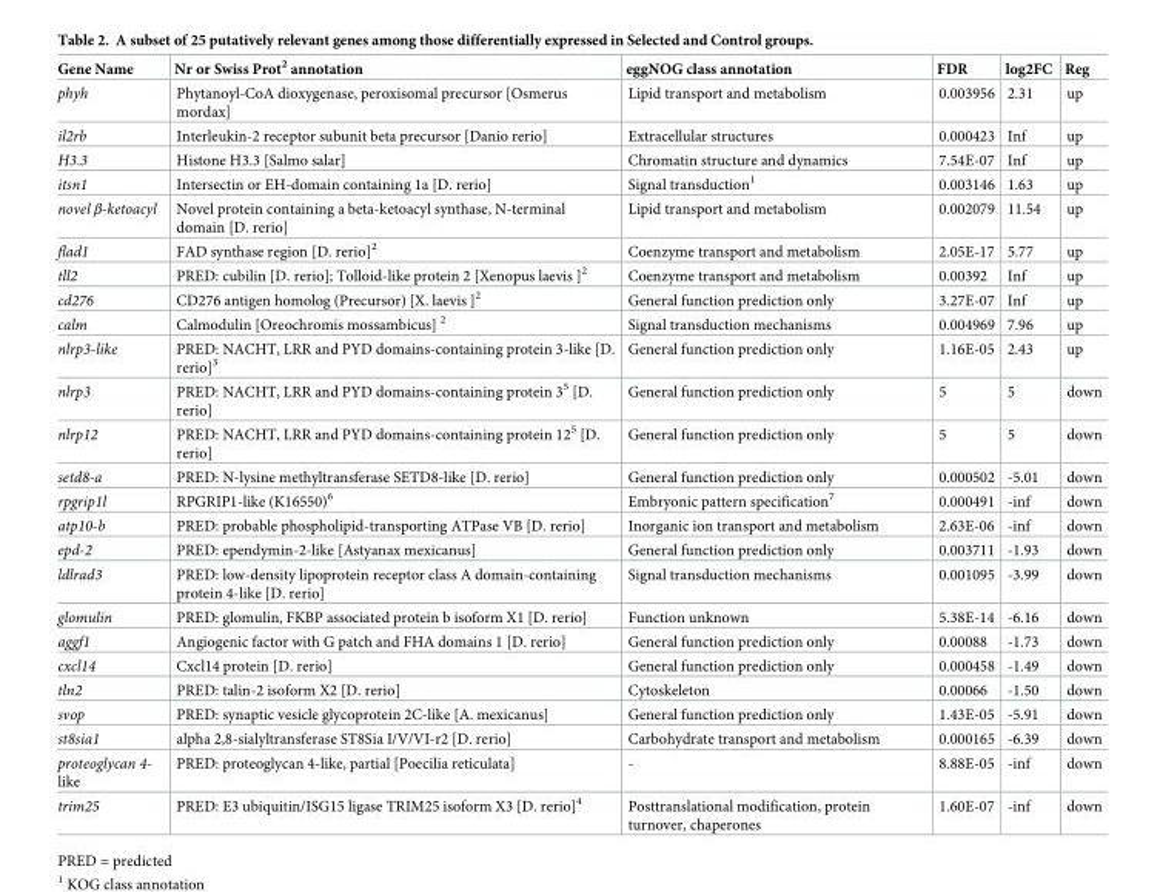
<table><thead><tr><td>Gene Name</td><td>Nr or Swiss Prot<sup>2</sup> annotation</td><td>eggNOG class annotation</td><td>FDR</td><td>log2FC</td><td>Reg</td></tr></thead><tbody><tr><td>phyh</td><td>Phytanoyl-CoA dioxygenase, peroxisomal precursor [Osmerus mordax]</td><td>Lipid transport and metabolism</td><td>0.003956</td><td>2.31</td><td>up</td></tr><tr><td>il2rb</td><td>Interleukin-2 receptor subunit beta precursor [Danio rerio]</td><td>Extracellular structures</td><td>0.000423</td><td>Inf</td><td>up</td></tr><tr><td>H3.3</td><td>Histone H3.3 [Salmo salar]</td><td>Chromatin structure and dynamics</td><td>7.54E-07</td><td>Inf</td><td>up</td></tr><tr><td>itsn1</td><td>Intersectin or EH-domain containing 1a [D. rerio]</td><td>Signal transduction<sup>1</sup></td><td>0.003146</td><td>1.63</td><td>up</td></tr><tr><td>novel β-ketoacyl</td><td>Novel protein containing a beta-ketoacyl synthase, N-terminal domain [D. rerio]</td><td>Lipid transport and metabolism</td><td>0.002079</td><td>11.54</td><td>up</td></tr><tr><td>flad1</td><td>FAD synthase region [D. rerio]<sup>2</sup></td><td>Coenzyme transport and metabolism</td><td>2.05E-17</td><td>5.77</td><td>up</td></tr><tr><td>tll2</td><td>PRED: cubilin [D. rerio]; Tolloid-like protein 2 [Xenopus laevis ]<sup>2</sup></td><td>Coenzyme transport and metabolism</td><td>0.00392</td><td>Inf</td><td>up</td></tr><tr><td>cd276</td><td>CD276 antigen homolog (Precursor) [X. laevis ]<sup>2</sup></td><td>General function prediction only</td><td>3.27E-07</td><td>Inf</td><td>up</td></tr><tr><td>calm</td><td>Calmodulin [Oreochromis mossambicus] <sup>2</sup></td><td>Signal transduction mechanisms</td><td>0.004969</td><td>7.96</td><td>up</td></tr><tr><td>nlrp3-like</td><td>PRED: NACHT, LRR and PYD domains-containing protein 3-like [D. rerio]<sup>3</sup></td><td>General function prediction only</td><td>1.16E-05</td><td>2.43</td><td>up</td></tr><tr><td>nlrp3</td><td>PRED: NACHT, LRR and PYD domains-containing protein 3<sup>5</sup> [D. rerio]</td><td>General function prediction only</td><td><sup>5</sup></td><td><sup>5</sup></td><td>down</td></tr><tr><td>nlrp12</td><td>PRED: NACHT, LRR and PYD domains-containing protein 12<sup>5</sup> [D. rerio]</td><td>General function prediction only</td><td><sup>5</sup></td><td><sup>5</sup></td><td>down</td></tr><tr><td>setd8-a</td><td>PRED: N-lysine methyltransferase SETD8-like [D. rerio]</td><td>General function prediction only</td><td>0.000502</td><td>-5.01</td><td>down</td></tr><tr><td>rpgrip1l</td><td>RPGRIP1-like (K16550)<sup>6</sup></td><td>Embryonic pattern specification<sup>7</sup></td><td>0.000491</td><td>-inf</td><td>down</td></tr><tr><td>atp10-b</td><td>PRED: probable phospholipid-transporting ATPase VB [D. rerio]</td><td>Inorganic ion transport and metabolism</td><td>2.63E-06</td><td>-inf</td><td>down</td></tr><tr><td>epd-2</td><td>PRED: ependymin-2-like [Astyanax mexicanus]</td><td>General function prediction only</td><td>0.003711</td><td>-1.93</td><td>down</td></tr><tr><td>ldlrad3</td><td>PRED: low-density lipoprotein receptor class A domain-containing protein 4-like [D. rerio]</td><td>Signal transduction mechanisms</td><td>0.001095</td><td>-3.99</td><td>down</td></tr><tr><td>glomulin</td><td>PRED: glomulin, FKBP associated protein b isoform X1 [D. rerio]</td><td>Function unknown</td><td>5.38E-14</td><td>-6.16</td><td>down</td></tr><tr><td>aggf1</td><td>Angiogenic factor with G patch and FHA domains 1 [D. rerio]</td><td>General function prediction only</td><td>0.00088</td><td>-1.73</td><td>down</td></tr><tr><td>cxcl14</td><td>Cxcl14 protein [D. rerio]</td><td>General function prediction only</td><td>0.000458</td><td>-1.49</td><td>down</td></tr><tr><td>tln2</td><td>PRED: talin-2 isoform X2 [D. rerio]</td><td>Cytoskeleton</td><td>0.00066</td><td>-1.50</td><td>down</td></tr><tr><td>svop</td><td>PRED: synaptic vesicle glycoprotein 2C-like [A. mexicanus]</td><td>General function prediction only</td><td>1.43E-05</td><td>-5.91</td><td>down</td></tr><tr><td>st8sia1</td><td>alpha 2,8-sialyltransferase ST8Sia I/V/VI-r2 [D. rerio]</td><td>Carbohydrate transport and metabolism</td><td>0.000165</td><td>-6.39</td><td>down</td></tr><tr><td>proteoglycan 4- like</td><td>PRED: proteoglycan 4-like, partial [Poecilia reticulata]</td><td>-</td><td>8.88E-05</td><td>-inf</td><td>down</td></tr><tr><td>trim25</td><td>PRED: E3 ubiquitin/ISG15 ligase TRIM25 isoform X3 [D. rerio]<sup>4</sup></td><td>Posttranslational modification, protein turnover, chaperones</td><td>1.60E-07</td><td>-inf</td><td>down</td></tr></tbody></table>